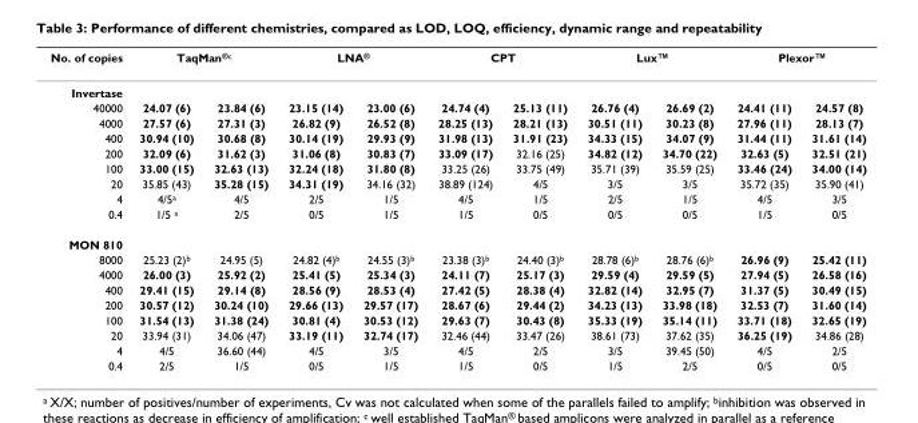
<table><thead><tr><td rowspan="2">No. of copies Invertase</td><td colspan="2">TaqMan<sup>®c</sup></td><td colspan="2">LNA<sup>®</sup></td><td colspan="2">CPT</td><td colspan="2">Lux™</td><td colspan="2">Plexor™</td></tr><tr><td></td><td></td><td></td><td></td><td></td><td></td><td></td><td></td><td></td><td></td></tr></thead><tbody><tr><td>40000</td><td>24.07 (6)</td><td>23.84 (6)</td><td>23.15 (14)</td><td>23.00 (6)</td><td>24.74 (4)</td><td>25.13 (11)</td><td>26.76 (4)</td><td>26.69 (2)</td><td>24.41 (11)</td><td>24.57 (8)</td></tr><tr><td>4000</td><td>27.57 (6)</td><td>27.31 (3)</td><td>26.82 (9)</td><td>26.52 (8)</td><td>28.25 (13)</td><td>28.21 (13)</td><td>30.51 (11)</td><td>30.23 (8)</td><td>27.96 (11)</td><td>28.13 (7)</td></tr><tr><td>400</td><td>30.94 (10)</td><td>30.68 (8)</td><td>30.14 (19)</td><td>29.93 (9)</td><td>31.98 (13)</td><td>31.91 (23)</td><td>34.33 (15)</td><td>34.07 (9)</td><td>31.44 (11)</td><td>31.61 (14)</td></tr><tr><td>200</td><td>32.09 (6)</td><td>31.62 (3)</td><td>31.06 (8)</td><td>30.83 (7)</td><td>33.09 (17)</td><td>32.16 (25)</td><td>34.82 (12)</td><td>34.70 (22)</td><td>32.63 (5)</td><td>32.51 (21)</td></tr><tr><td>100</td><td>33.00 (15)</td><td>32.63 (13)</td><td>32.24 (18)</td><td>31.80 (8)</td><td>33.25 (26)</td><td>33.75 (49)</td><td>35.71 (39)</td><td>35.59 (25)</td><td>33.46 (24)</td><td>34.00 (14)</td></tr><tr><td>20</td><td>35.85 (43)</td><td>35.28 (15)</td><td>34.31 (19)</td><td>34.16 (32)</td><td>38.89 (124)</td><td>4/5</td><td>3/5</td><td>3/5</td><td>35.72 (35)</td><td>35.90 (41)</td></tr><tr><td>4</td><td>4/5<sup>a</sup></td><td>4/5</td><td>2/5</td><td>1/5</td><td>4/5</td><td>1/5</td><td>2/5</td><td>1/5</td><td>4/5</td><td>3/5</td></tr><tr><td>0.4</td><td>1/5 <sup>a</sup></td><td>2/5</td><td>0/5</td><td>1/5</td><td>1/5</td><td>0/5</td><td>0/5</td><td>0/5</td><td>1/5</td><td>0/5</td></tr><tr><td colspan="11">MON 810</td></tr><tr><td>8000</td><td>25.23 (2)<sup>b</sup></td><td>24.95 (5)</td><td>24.82 (4)<sup>b</sup></td><td>24.55 (3)<sup>b</sup></td><td>23.38 (3)<sup>b</sup></td><td>24.40 (3)<sup>b</sup></td><td>28.78 (6)<sup>b</sup></td><td>28.76 (6)<sup>b</sup></td><td>26.96 (9)</td><td>25.42 (11)</td></tr><tr><td>4000</td><td>26.00 (3)</td><td>25.92 (2)</td><td>25.41 (5)</td><td>25.34 (3)</td><td>24.11 (7)</td><td>25.17 (3)</td><td>29.59 (4)</td><td>29.59 (5)</td><td>27.94 (5)</td><td>26.58 (16)</td></tr><tr><td>400</td><td>29.41 (15)</td><td>29.14 (8)</td><td>28.56 (9)</td><td>28.53 (4)</td><td>27.42 (5)</td><td>28.38 (4)</td><td>32.82 (14)</td><td>32.95 (7)</td><td>31.37 (5)</td><td>30.49 (15)</td></tr><tr><td>200</td><td>30.57 (12)</td><td>30.24 (10)</td><td>29.66 (13)</td><td>29.57 (17)</td><td>28.67 (6)</td><td>29.44 (2)</td><td>34.23 (13)</td><td>33.98 (18)</td><td>32.53 (7)</td><td>31.60 (14)</td></tr><tr><td>100</td><td>31.54 (13)</td><td>31.38 (24)</td><td>30.81 (4)</td><td>30.53 (12)</td><td>29.63 (7)</td><td>30.43 (8)</td><td>35.33 (19)</td><td>35.14 (11)</td><td>33.71 (18)</td><td>32.65 (19)</td></tr><tr><td>20</td><td>33.94 (31)</td><td>34.06 (47)</td><td>33.19 (11)</td><td>32.74 (17)</td><td>32.46 (44)</td><td>33.47 (26)</td><td>38.61 (73)</td><td>37.62 (35)</td><td>36.25 (19)</td><td>34.86 (28)</td></tr><tr><td>4</td><td>4/5</td><td>36.60 (44)</td><td>4/5</td><td>3/5</td><td>4/5</td><td>2/5</td><td>3/5</td><td>39.45 (50)</td><td>4/5</td><td>2/5</td></tr><tr><td>0.4</td><td>2/5</td><td>1/5</td><td>0/5</td><td>1/5</td><td>1/5</td><td>0/5</td><td>1/5</td><td>2/5</td><td>0/5</td><td>0/5</td></tr></tbody></table>